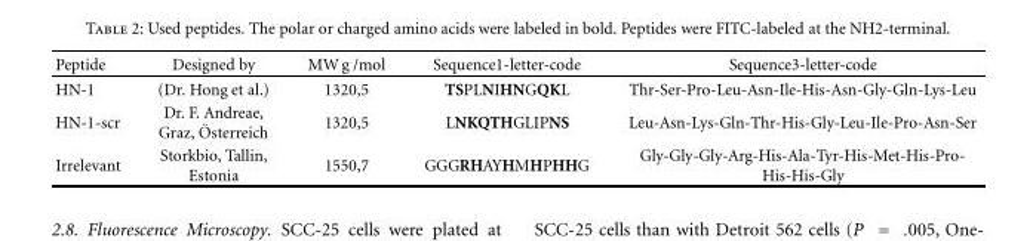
<table><thead><tr><td>Peptide</td><td>Designed by</td><td>MW g /mol</td><td>Sequence1-letter-code</td><td>Sequence3-letter-code</td></tr></thead><tbody><tr><td>HN-1</td><td>(Dr. Hong et al.)</td><td>1320,5</td><td>TSPLNIHNGQKL</td><td>Thr-Ser-Pro-Leu-Asn-Ile-His-Asn-Gly-Gln-Lys-Leu</td></tr><tr><td>HN-1-scr</td><td>Dr. F. Andreae, Graz, ¨Osterreich</td><td>1320,5</td><td>LNKQTHGLIPNS</td><td>Leu-Asn-Lys-Gln-Thr-His-Gly-Leu-Ile-Pro-Asn-Ser</td></tr><tr><td>Irrelevant</td><td>Storkbio, Tallin, Estonia</td><td>1550,7</td><td>GGGRHAYHMHPHHG</td><td>Gly-Gly-Gly-Arg-His-Ala-Tyr-His-Met-His-Pro- His-His-Gly</td></tr></tbody></table>